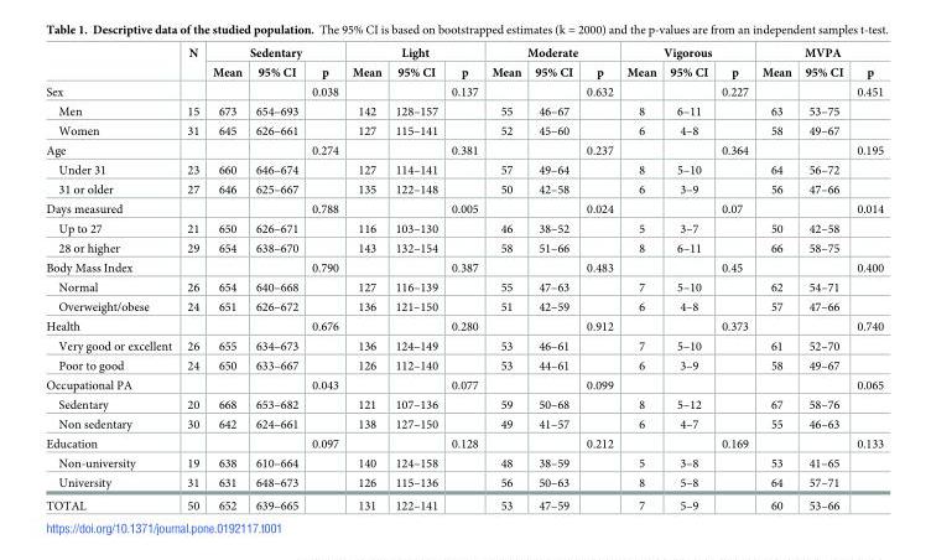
<table><thead><tr><td rowspan="2"></td><td rowspan="2">N</td><td colspan="3">Sedentary</td><td colspan="3">Light</td><td colspan="3">Moderate</td><td colspan="3">Vigorous</td><td colspan="3">MVPA</td></tr><tr><td>Mean</td><td>95% CI</td><td>p</td><td>Mean</td><td>95% CI</td><td>p</td><td>Mean</td><td>95% CI</td><td>p</td><td>Mean</td><td>95% CI</td><td>p</td><td>Mean</td><td>95% CI</td><td>p</td></tr></thead><tbody><tr><td>Sex</td><td></td><td></td><td></td><td>0.038</td><td></td><td></td><td>0.137</td><td></td><td></td><td>0.632</td><td></td><td></td><td>0.227</td><td></td><td></td><td>0.451</td></tr><tr><td>Men</td><td>15</td><td>673</td><td>654–693</td><td></td><td>142</td><td>128–157</td><td></td><td>55</td><td>46–67</td><td></td><td>8</td><td>6–11</td><td></td><td>63</td><td>53–75</td><td></td></tr><tr><td>Women</td><td>31</td><td>645</td><td>626–661</td><td></td><td>127</td><td>115–141</td><td></td><td>52</td><td>45–60</td><td></td><td>6</td><td>4–8</td><td></td><td>58</td><td>49–67</td><td></td></tr><tr><td>Age</td><td></td><td></td><td></td><td>0.274</td><td></td><td></td><td>0.381</td><td></td><td></td><td>0.237</td><td></td><td></td><td>0.364</td><td></td><td></td><td>0.195</td></tr><tr><td>Under 31</td><td>23</td><td>660</td><td>646–674</td><td></td><td>127</td><td>114–141</td><td></td><td>57</td><td>49–64</td><td></td><td>8</td><td>5–10</td><td></td><td>64</td><td>56–72</td><td></td></tr><tr><td>31 or older</td><td>27</td><td>646</td><td>625–667</td><td></td><td>135</td><td>122–148</td><td></td><td>50</td><td>42–58</td><td></td><td>6</td><td>3–9</td><td></td><td>56</td><td>47–66</td><td></td></tr><tr><td>Days measured</td><td></td><td></td><td></td><td>0.788</td><td></td><td></td><td>0.005</td><td></td><td></td><td>0.024</td><td></td><td></td><td>0.07</td><td></td><td></td><td>0.014</td></tr><tr><td>Up to 27</td><td>21</td><td>650</td><td>626–671</td><td></td><td>116</td><td>103–130</td><td></td><td>46</td><td>38–52</td><td></td><td>5</td><td>3–7</td><td></td><td>50</td><td>42–58</td><td></td></tr><tr><td>28 or higher</td><td>29</td><td>654</td><td>638–670</td><td></td><td>143</td><td>132–154</td><td></td><td>58</td><td>51–66</td><td></td><td>8</td><td>6–11</td><td></td><td>66</td><td>58–75</td><td></td></tr><tr><td>Body Mass Index</td><td></td><td></td><td></td><td>0.790</td><td></td><td></td><td>0.387</td><td></td><td></td><td>0.483</td><td></td><td></td><td>0.45</td><td></td><td></td><td>0.400</td></tr><tr><td>Normal</td><td>26</td><td>654</td><td>640–668</td><td></td><td>127</td><td>116–139</td><td></td><td>55</td><td>47–63</td><td></td><td>7</td><td>5–10</td><td></td><td>62</td><td>54–71</td><td></td></tr><tr><td>Overweight/obese</td><td>24</td><td>651</td><td>626–672</td><td></td><td>136</td><td>121–150</td><td></td><td>51</td><td>42–59</td><td></td><td>6</td><td>4–8</td><td></td><td>57</td><td>47–66</td><td></td></tr><tr><td>Health</td><td></td><td></td><td></td><td>0.676</td><td></td><td></td><td>0.280</td><td></td><td></td><td>0.912</td><td></td><td></td><td>0.373</td><td></td><td></td><td>0.740</td></tr><tr><td>Very good or excellent</td><td>26</td><td>655</td><td>634–673</td><td></td><td>136</td><td>124–149</td><td></td><td>53</td><td>46–61</td><td></td><td>7</td><td>5–10</td><td></td><td>61</td><td>52–70</td><td></td></tr><tr><td>Poor to good</td><td>24</td><td>650</td><td>633–667</td><td></td><td>126</td><td>112–140</td><td></td><td>53</td><td>44–61</td><td></td><td>6</td><td>3–9</td><td></td><td>58</td><td>49–67</td><td></td></tr><tr><td>Occupational PA</td><td></td><td></td><td></td><td>0.043</td><td></td><td></td><td>0.077</td><td></td><td></td><td>0.099</td><td></td><td></td><td></td><td></td><td></td><td>0.065</td></tr><tr><td>Sedentary</td><td>20</td><td>668</td><td>653–682</td><td></td><td>121</td><td>107–136</td><td></td><td>59</td><td>50–68</td><td></td><td>8</td><td>5–12</td><td></td><td>67</td><td>58–76</td><td></td></tr><tr><td>Non sedentary</td><td>30</td><td>642</td><td>624–661</td><td></td><td>138</td><td>127–150</td><td></td><td>49</td><td>41–57</td><td></td><td>6</td><td>4–7</td><td></td><td>55</td><td>46–63</td><td></td></tr><tr><td>Education</td><td></td><td></td><td></td><td>0.097</td><td></td><td></td><td>0.128</td><td></td><td></td><td>0.212</td><td></td><td></td><td>0.169</td><td></td><td></td><td>0.133</td></tr><tr><td>Non-university</td><td>19</td><td>638</td><td>610–664</td><td></td><td>140</td><td>124–158</td><td></td><td>48</td><td>38–59</td><td></td><td>5</td><td>3–8</td><td></td><td>53</td><td>41–65</td><td></td></tr><tr><td>University</td><td>31</td><td>631</td><td>648–673</td><td></td><td>126</td><td>115–136</td><td></td><td>56</td><td>50–63</td><td></td><td>8</td><td>5–8</td><td></td><td>64</td><td>57–71</td><td></td></tr><tr><td>TOTAL</td><td>50</td><td>652</td><td>639–665</td><td></td><td>131</td><td>122–141</td><td></td><td>53</td><td>47–59</td><td></td><td>7</td><td>5–9</td><td></td><td>60</td><td>53–66</td><td></td></tr></tbody></table>